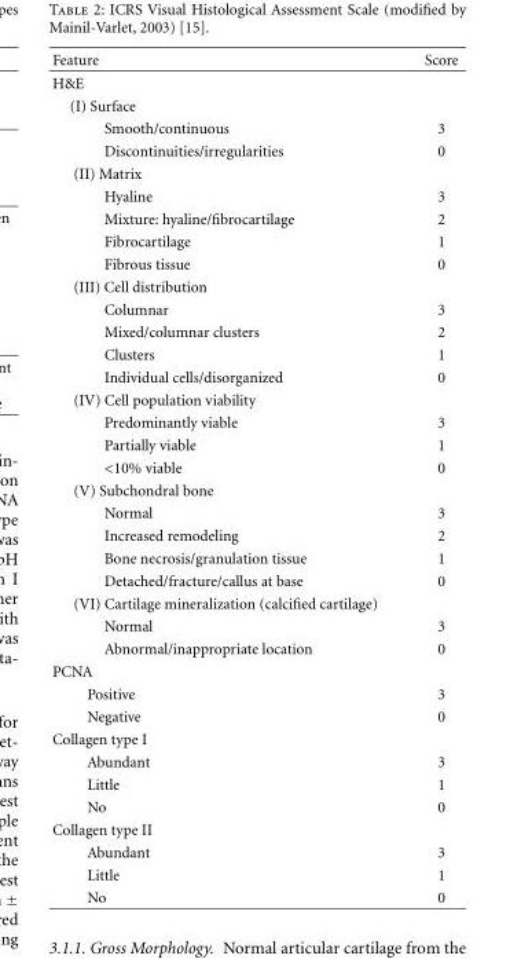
<table><thead><tr><td>Feature</td><td>Score</td></tr></thead><tbody><tr><td colspan="2">H&amp;E</td></tr><tr><td colspan="2">(I) Surface</td></tr><tr><td>Smooth/continuous</td><td>3</td></tr><tr><td>Discontinuities/irregularities</td><td>0</td></tr><tr><td colspan="2">(II) Matrix</td></tr><tr><td>Hyaline</td><td>3</td></tr><tr><td>Mixture: hyaline/fibrocartilage</td><td>2</td></tr><tr><td>Fibrocartilage</td><td>1</td></tr><tr><td>Fibrous tissue</td><td>0</td></tr><tr><td colspan="2">(III) Cell distribution</td></tr><tr><td>Columnar</td><td>3</td></tr><tr><td>Mixed/columnar clusters</td><td>2</td></tr><tr><td>Clusters</td><td>1</td></tr><tr><td>Individual cells/disorganized</td><td>0</td></tr><tr><td colspan="2">(IV) Cell population viability</td></tr><tr><td>Predominantly viable</td><td>3</td></tr><tr><td>Partially viable</td><td>1</td></tr><tr><td>&lt;10% viable</td><td>0</td></tr><tr><td colspan="2">(V) Subchondral bone</td></tr><tr><td>Normal</td><td>3</td></tr><tr><td>Increased remodeling</td><td>2</td></tr><tr><td>Bone necrosis/granulation tissue</td><td>1</td></tr><tr><td>Detached/fracture/callus at base</td><td>0</td></tr><tr><td colspan="2">(VI) Cartilage mineralization (calcified cartilage)</td></tr><tr><td>Normal</td><td>3</td></tr><tr><td>Abnormal/inappropriate location</td><td>0</td></tr><tr><td colspan="2">PCNA</td></tr><tr><td>Positive</td><td>3</td></tr><tr><td>Negative</td><td>0</td></tr><tr><td colspan="2">Collagen type I</td></tr><tr><td>Abundant</td><td>3</td></tr><tr><td>Little</td><td>1</td></tr><tr><td>No</td><td>0</td></tr><tr><td colspan="2">Collagen type II</td></tr><tr><td>Abundant</td><td>3</td></tr><tr><td>Little</td><td>1</td></tr><tr><td>No</td><td>0</td></tr></tbody></table>